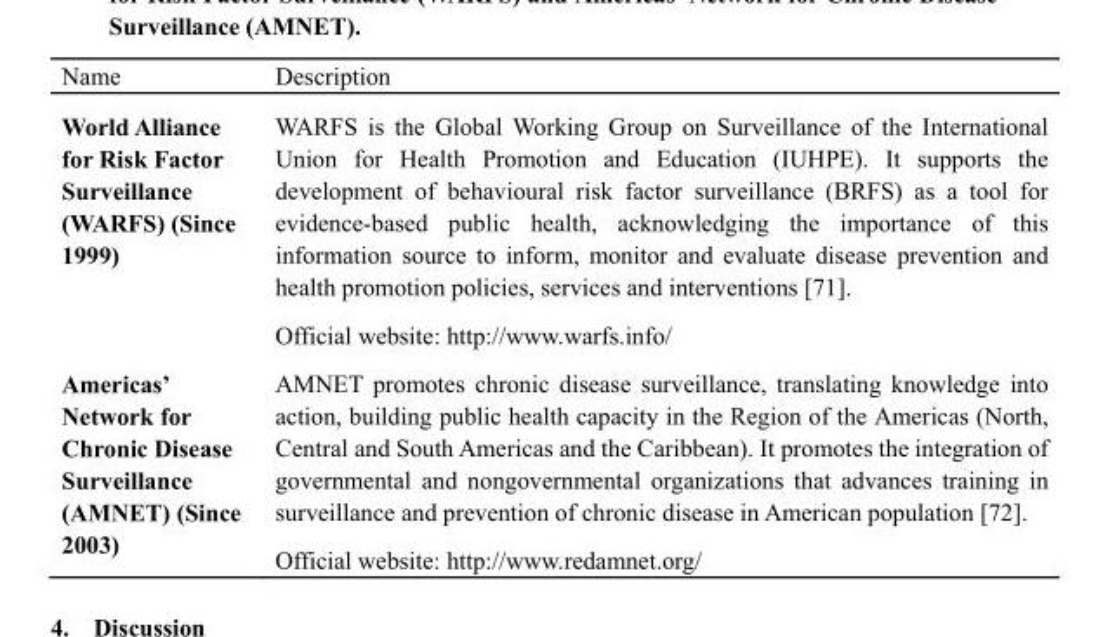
<table><thead><tr><td>Name</td><td>Description</td></tr></thead><tbody><tr><td>World Alliance for Risk Factor Surveillance (WARFS) (Since 1999)</td><td>WARFS is the Global Working Group on Surveillance of the International Union for Health Promotion and Education (IUHPE). It supports the development of behavioural risk factor surveillance (BRFS) as a tool for evidence-based public health, acknowledging the importance of this information source to inform, monitor and evaluate disease prevention and health promotion policies, services and interventions [71]. Official website: http://www.warfs.info/</td></tr><tr><td>Americas’ Network for Chronic Disease Surveillance (AMNET) (Since 2003)</td><td>AMNET promotes chronic disease surveillance, translating knowledge into action, building public health capacity in the Region of the Americas (North, Central and South Americas and the Caribbean). It promotes the integration of governmental and nongovernmental organizations that advances training in surveillance and prevention of chronic disease in American population [72]. Official website: http://www.redamnet.org/</td></tr></tbody></table>